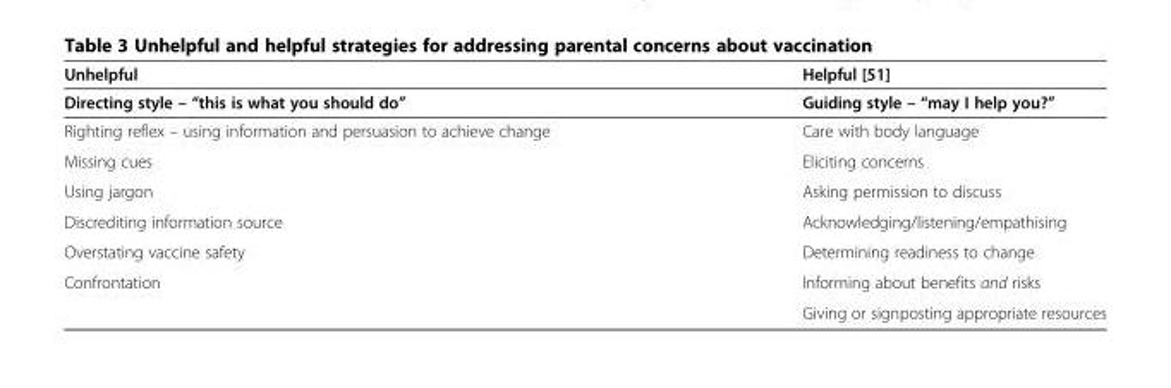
<table><thead><tr><td rowspan="2">Unhelpful Directing style – “this is what you should do”</td><td rowspan="2">Helpful [51] Guiding style – “may I help you?”</td></tr><tr></tr></thead><tbody><tr><td>Righting reflex – using information and persuasion to achieve change</td><td>Care with body language</td></tr><tr><td>Missing cues</td><td>Eliciting concerns</td></tr><tr><td>Using jargon</td><td>Asking permission to discuss</td></tr><tr><td>Discrediting information source</td><td>Acknowledging/listening/empathising</td></tr><tr><td>Overstating vaccine safety</td><td>Determining readiness to change</td></tr><tr><td rowspan="2">Confrontation</td><td>Informing about benefits and risks</td></tr><tr><td>Giving or signposting appropriate resources</td></tr></tbody></table>